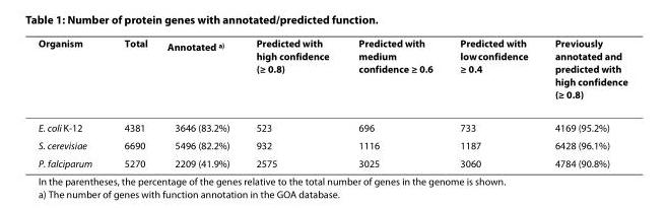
<table><thead><tr><td>Organism</td><td>Total</td><td>Annotated <sup>a)</sup></td><td>Predicted with high confidence (≥ 0.8)</td><td>Predicted with medium confidence ≥ 0.6</td><td>Predicted with low confidence ≥ 0.4</td><td>Previously annotated and predicted with high confidence (≥ 0.8)</td></tr></thead><tbody><tr><td>E. coli K-12</td><td>4381</td><td>3646 (83.2%)</td><td>523</td><td>696</td><td>733</td><td>4169 (95.2%)</td></tr><tr><td>S. cerevisiae</td><td>6690</td><td>5496 (82.2%)</td><td>932</td><td>1116</td><td>1187</td><td>6428 (96.1%)</td></tr><tr><td>P. falciparum</td><td>5270</td><td>2209 (41.9%)</td><td>2575</td><td>3025</td><td>3060</td><td>4784 (90.8%)</td></tr></tbody></table>